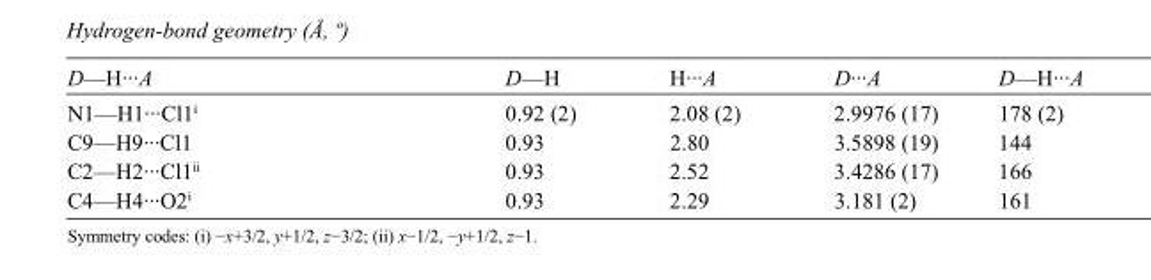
<table><tbody><tr><td>D—H···A</td><td>D—H</td><td>H···A</td><td>D···A</td><td>D—H···A</td></tr><tr><td>N1—H1···Cl1<sup>i</sup></td><td>0.92 (2)</td><td>2.08 (2)</td><td>2.9976 (17)</td><td>178 (2)</td></tr><tr><td>C9—H9···Cl1</td><td>0.93</td><td>2.80</td><td>3.5898 (19)</td><td>144</td></tr><tr><td>C2—H2···Cl1<sup>ii</sup></td><td>0.93</td><td>2.52</td><td>3.4286 (17)</td><td>166</td></tr><tr><td>C4—H4···O2<sup>i</sup></td><td>0.93</td><td>2.29</td><td>3.181 (2)</td><td>161</td></tr></tbody></table>